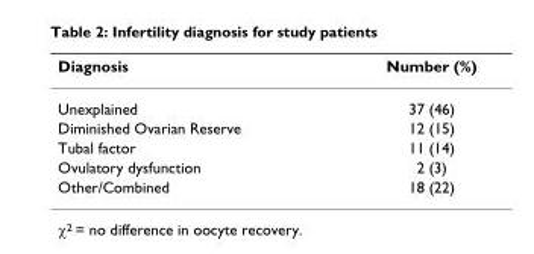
<table><thead><tr><td>Diagnosis</td><td>Number (%)</td></tr></thead><tbody><tr><td>Unexplained</td><td>37 (46)</td></tr><tr><td>Diminished Ovarian Reserve</td><td>12 (15)</td></tr><tr><td>Tubal factor</td><td>11 (14)</td></tr><tr><td>Ovulatory dysfunction</td><td>2 (3)</td></tr><tr><td>Other/Combined</td><td>18 (22)</td></tr></tbody></table>